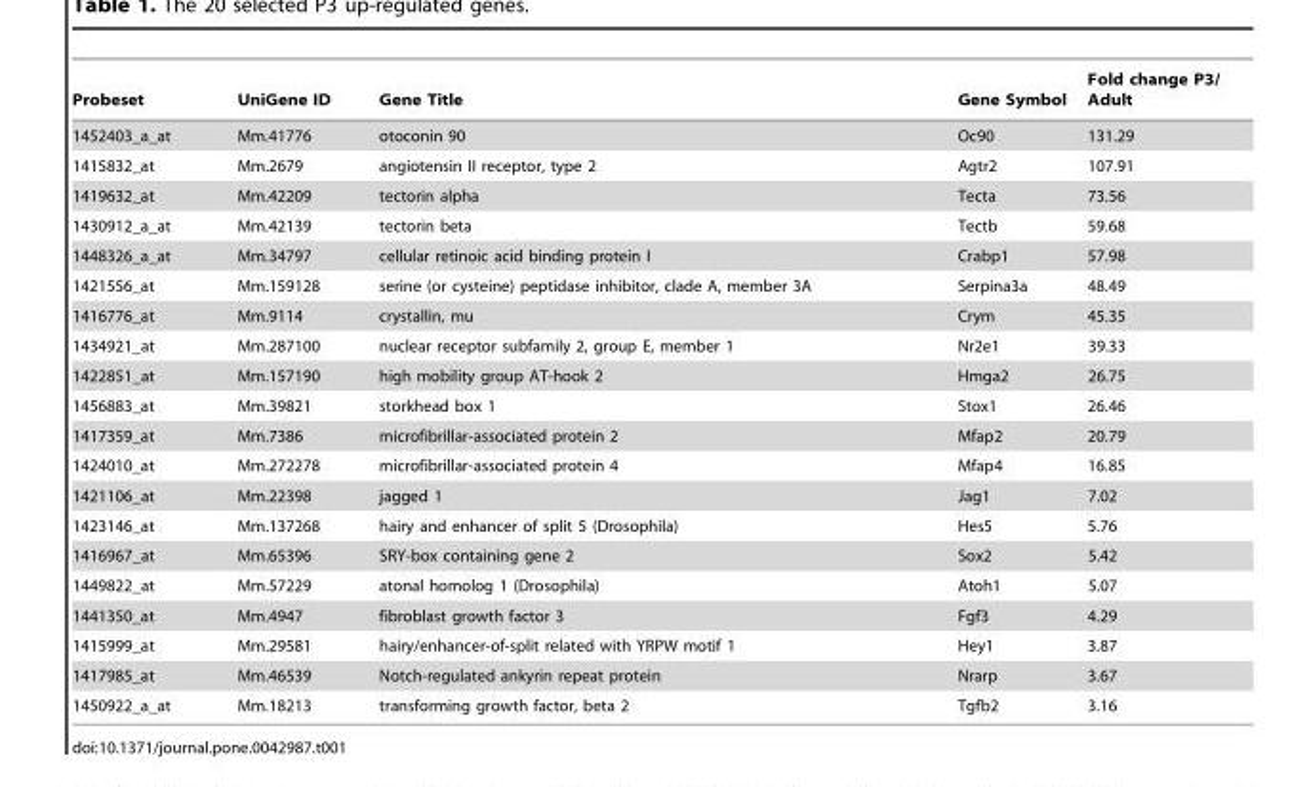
<table><thead><tr><td>Probeset</td><td>UniGene ID</td><td>Gene Title</td><td>Gene Symbol</td><td>Fold change P3/ Adult</td></tr></thead><tbody><tr><td>1452403_a_at</td><td>Mm.41776</td><td>otoconin 90</td><td>Oc90</td><td>131.29</td></tr><tr><td>1415832_at</td><td>Mm.2679</td><td>angiotensin II receptor, type 2</td><td>Agtr2</td><td>107.91</td></tr><tr><td>1419632_at</td><td>Mm.42209</td><td>tectorin alpha</td><td>Tecta</td><td>73.56</td></tr><tr><td>1430912_a_at</td><td>Mm.42139</td><td>tectorin beta</td><td>Tectb</td><td>59.68</td></tr><tr><td>1448326_a_at</td><td>Mm.34797</td><td>cellular retinoic acid binding protein I</td><td>Crabp1</td><td>57.98</td></tr><tr><td>1421556_at</td><td>Mm.159128</td><td>serine (or cysteine) peptidase inhibitor, clade A, member 3A</td><td>Serpina3a</td><td>48.49</td></tr><tr><td>1416776_at</td><td>Mm.9114</td><td>crystallin, mu</td><td>Crym</td><td>45.35</td></tr><tr><td>1434921_at</td><td>Mm.287100</td><td>nuclear receptor subfamily 2, group E, member 1</td><td>Nr2e1</td><td>39.33</td></tr><tr><td>1422851_at</td><td>Mm.157190</td><td>high mobility group AT-hook 2</td><td>Hmga2</td><td>26.75</td></tr><tr><td>1456883_at</td><td>Mm.39821</td><td>storkhead box 1</td><td>Stox1</td><td>26.46</td></tr><tr><td>1417359_at</td><td>Mm.7386</td><td>microfibrillar-associated protein 2</td><td>Mfap2</td><td>20.79</td></tr><tr><td>1424010_at</td><td>Mm.272278</td><td>microfibrillar-associated protein 4</td><td>Mfap4</td><td>16.85</td></tr><tr><td>1421106_at</td><td>Mm.22398</td><td>jagged 1</td><td>Jag1</td><td>7.02</td></tr><tr><td>1423146_at</td><td>Mm.137268</td><td>hairy and enhancer of split 5 (Drosophila)</td><td>Hes5</td><td>5.76</td></tr><tr><td>1416967_at</td><td>Mm.65396</td><td>SRY-box containing gene 2</td><td>Sox2</td><td>5.42</td></tr><tr><td>1449822_at</td><td>Mm.57229</td><td>atonal homolog 1 (Drosophila)</td><td>Atoh1</td><td>5.07</td></tr><tr><td>1441350_at</td><td>Mm.4947</td><td>fibroblast growth factor 3</td><td>Fgf3</td><td>4.29</td></tr><tr><td>1415999_at</td><td>Mm.29581</td><td>hairy/enhancer-of-split related with YRPW motif 1</td><td>Hey1</td><td>3.87</td></tr><tr><td>1417985_at</td><td>Mm.46539</td><td>Notch-regulated ankyrin repeat protein</td><td>Nrarp</td><td>3.67</td></tr><tr><td>1450922_a_at</td><td>Mm.18213</td><td>transforming growth factor, beta 2</td><td>Tgfb2</td><td>3.16</td></tr></tbody></table>